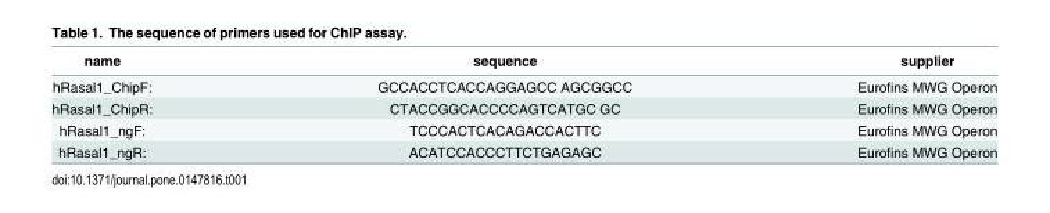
<table><thead><tr><td>name</td><td>sequence</td><td>supplier</td></tr></thead><tbody><tr><td>hRasal1_ChipF:</td><td>GCCACCTCACCAGGAGCC AGCGGCC</td><td>Eurofins MWG Operon</td></tr><tr><td>hRasal1_ChipR:</td><td>CTACCGGCACCCCAGTCATGC GC</td><td>Eurofins MWG Operon</td></tr><tr><td>hRasal1_ngF:</td><td>TCCCACTCACAGACCACTTC</td><td>Eurofins MWG Operon</td></tr><tr><td>hRasal1_ngR:</td><td>ACATCCACCCTTCTGAGAGC</td><td>Eurofins MWG Operon</td></tr></tbody></table>